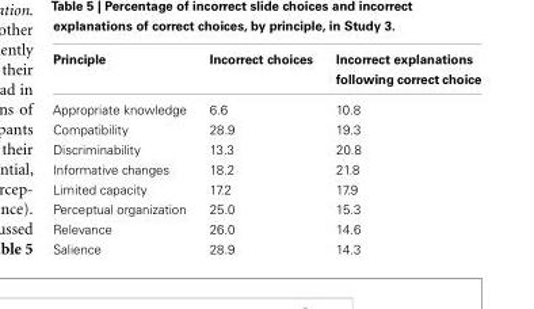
<table><thead><tr><td>Principle</td><td>Incorrect choices</td><td>Incorrect explanations following correct choice</td></tr></thead><tbody><tr><td>Appropriate knowledge</td><td>6.6</td><td>10.8</td></tr><tr><td>Compatibility</td><td>28.9</td><td>19.3</td></tr><tr><td>Discriminability</td><td>13.3</td><td>20.8</td></tr><tr><td>Informative changes</td><td>18.2</td><td>21.8</td></tr><tr><td>Limited capacity</td><td>17.2</td><td>17.9</td></tr><tr><td>Perceptual organization</td><td>25.0</td><td>15.3</td></tr><tr><td>Relevance</td><td>26.0</td><td>14.6</td></tr><tr><td>Salience</td><td>28.9</td><td>14.3</td></tr></tbody></table>